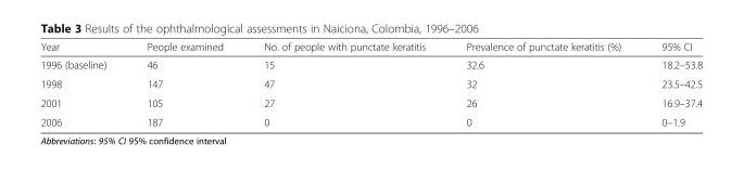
<table><thead><tr><td>Year</td><td>People examined</td><td>No. of people with punctate keratitis</td><td>Prevalence of punctate keratitis (%)</td><td>95% CI</td></tr></thead><tbody><tr><td>1996 (baseline)</td><td>46</td><td>15</td><td>32.6</td><td>18.2–53.8</td></tr><tr><td>1998</td><td>147</td><td>47</td><td>32</td><td>23.5–42.5</td></tr><tr><td>2001</td><td>105</td><td>27</td><td>26</td><td>16.9–37.4</td></tr><tr><td>2006</td><td>187</td><td>0</td><td>0</td><td>0–1.9</td></tr></tbody></table>